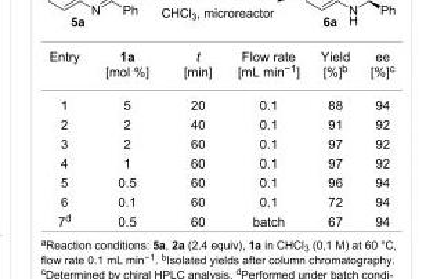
<table><tbody><tr><td>Entry</td><td>1a [mol %]</td><td>t [min]</td><td>Flow rate [mL min<sup>−1</sup>]</td><td>Yield [%]<sup>b</sup></td><td>ee [%]<sup>c</sup></td></tr><tr><td>1</td><td>5</td><td>20</td><td>0.1</td><td>88</td><td>94</td></tr><tr><td>2</td><td>2</td><td>40</td><td>0.1</td><td>91</td><td>92</td></tr><tr><td>3</td><td>2</td><td>60</td><td>0.1</td><td>97</td><td>92</td></tr><tr><td>4</td><td>1</td><td>60</td><td>0.1</td><td>97</td><td>92</td></tr><tr><td>5</td><td>0.5</td><td>60</td><td>0.1</td><td>96</td><td>94</td></tr><tr><td>6</td><td>0.1</td><td>60</td><td>0.1</td><td>72</td><td>94</td></tr><tr><td>7<sup>d</sup></td><td>0.5</td><td>60</td><td>batch</td><td>67</td><td>94</td></tr></tbody></table>